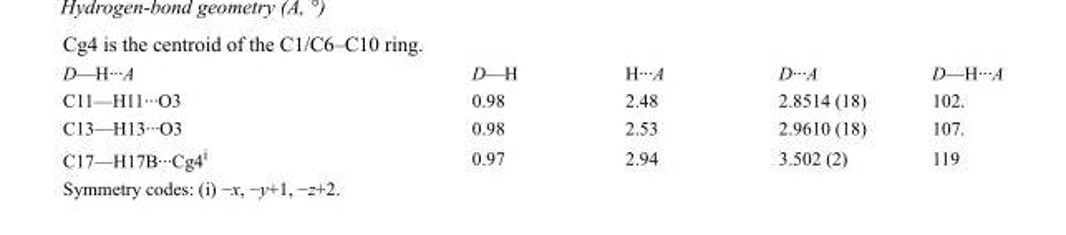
<table><tbody><tr><td>D—H···A</td><td>D—H</td><td>H···A</td><td>D···A</td><td>D—H···A</td></tr><tr><td>C11—H11···O3</td><td>0.98</td><td>2.48</td><td>2.8514 (18)</td><td>102.</td></tr><tr><td>C13—H13···O3</td><td>0.98</td><td>2.53</td><td>2.9610 (18)</td><td>107.</td></tr><tr><td>C17—H17B···Cg4<sup>i</sup></td><td>0.97</td><td>2.94</td><td>3.502 (2)</td><td>119</td></tr></tbody></table>